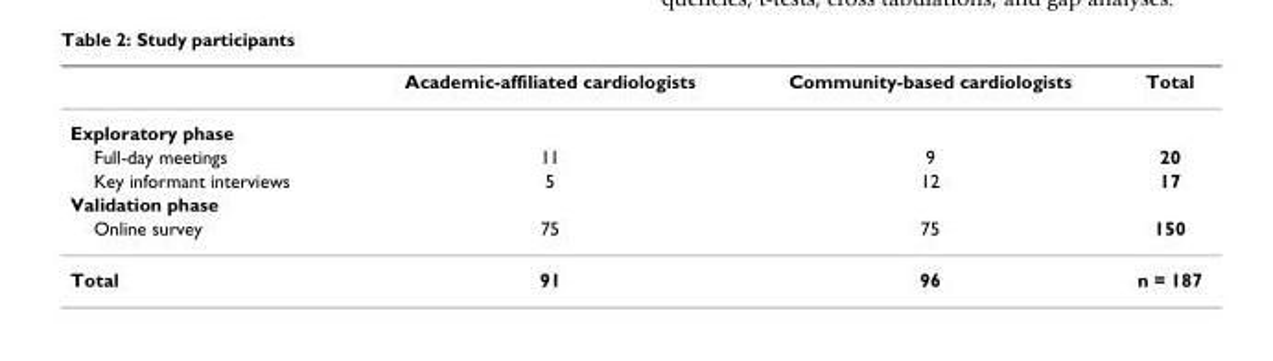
<table><thead><tr><td></td><td>Academic-affiliated cardiologists</td><td>Community-based cardiologists</td><td>Total</td></tr></thead><tbody><tr><td colspan="4">Exploratory phase</td></tr><tr><td>Full-day meetings</td><td>11</td><td>9</td><td>20</td></tr><tr><td>Key informant interviews</td><td>5</td><td>12</td><td>17</td></tr><tr><td colspan="4">Validation phase</td></tr><tr><td>Online survey</td><td>75</td><td>75</td><td>150</td></tr><tr><td>Total</td><td>91</td><td>96</td><td>n = 187</td></tr></tbody></table>